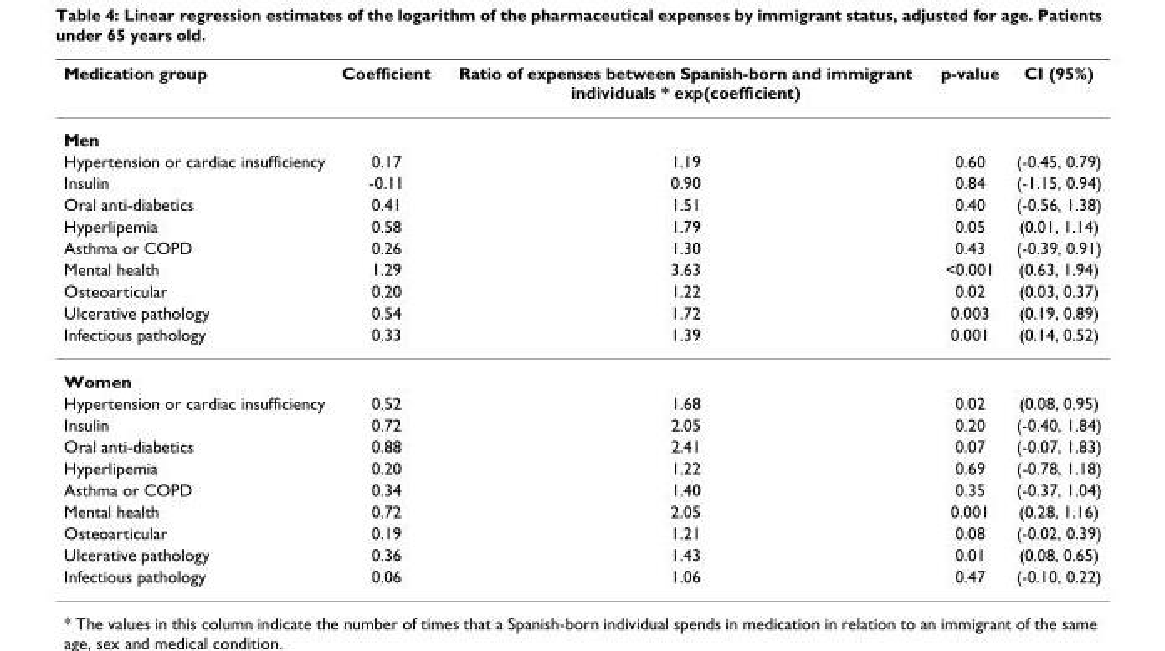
<table><thead><tr><td>Medication group</td><td>Coefficient</td><td>Ratio of expenses between Spanish-born and immigrant individuals * exp(coefficient)</td><td>p-value</td><td>CI (95%)</td></tr></thead><tbody><tr><td colspan="5">Men</td></tr><tr><td>Hypertension or cardiac insufficiency</td><td>0.17</td><td>1.19</td><td>0.60</td><td>(-0.45, 0.79)</td></tr><tr><td>Insulin</td><td>-0.11</td><td>0.90</td><td>0.84</td><td>(-1.15, 0.94)</td></tr><tr><td>Oral anti-diabetics</td><td>0.41</td><td>1.51</td><td>0.40</td><td>(-0.56, 1.38)</td></tr><tr><td>Hyperlipemia</td><td>0.58</td><td>1.79</td><td>0.05</td><td>(0.01, 1.14)</td></tr><tr><td>Asthma or COPD</td><td>0.26</td><td>1.30</td><td>0.43</td><td>(-0.39, 0.91)</td></tr><tr><td>Mental health</td><td>1.29</td><td>3.63</td><td>&lt;0.001</td><td>(0.63, 1.94)</td></tr><tr><td>Osteoarticular</td><td>0.20</td><td>1.22</td><td>0.02</td><td>(0.03, 0.37)</td></tr><tr><td>Ulcerative pathology</td><td>0.54</td><td>1.72</td><td>0.003</td><td>(0.19, 0.89)</td></tr><tr><td>Infectious pathology</td><td>0.33</td><td>1.39</td><td>0.001</td><td>(0.14, 0.52)</td></tr><tr><td colspan="5">Women</td></tr><tr><td>Hypertension or cardiac insufficiency</td><td>0.52</td><td>1.68</td><td>0.02</td><td>(0.08, 0.95)</td></tr><tr><td>Insulin</td><td>0.72</td><td>2.05</td><td>0.20</td><td>(-0.40, 1.84)</td></tr><tr><td>Oral anti-diabetics</td><td>0.88</td><td>2.41</td><td>0.07</td><td>(-0.07, 1.83)</td></tr><tr><td>Hyperlipemia</td><td>0.20</td><td>1.22</td><td>0.69</td><td>(-0.78, 1.18)</td></tr><tr><td>Asthma or COPD</td><td>0.34</td><td>1.40</td><td>0.35</td><td>(-0.37, 1.04)</td></tr><tr><td>Mental health</td><td>0.72</td><td>2.05</td><td>0.001</td><td>(0.28, 1.16)</td></tr><tr><td>Osteoarticular</td><td>0.19</td><td>1.21</td><td>0.08</td><td>(-0.02, 0.39)</td></tr><tr><td>Ulcerative pathology</td><td>0.36</td><td>1.43</td><td>0.01</td><td>(0.08, 0.65)</td></tr><tr><td>Infectious pathology</td><td>0.06</td><td>1.06</td><td>0.47</td><td>(-0.10, 0.22)</td></tr></tbody></table>